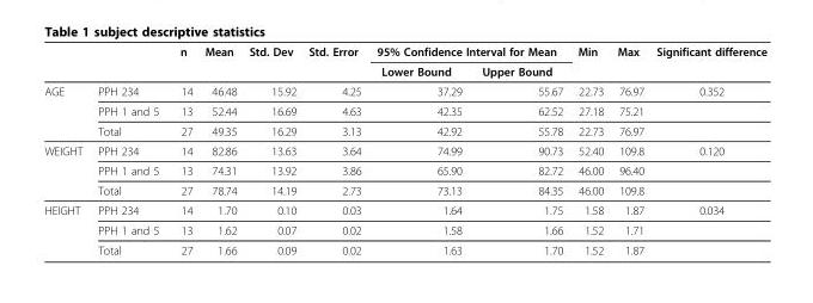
<table><thead><tr><td rowspan="2"></td><td rowspan="2"></td><td rowspan="2">n</td><td rowspan="2">Mean</td><td rowspan="2">Std. Dev</td><td rowspan="2">Std. Error</td><td colspan="2">95% Confidence Interval for Mean</td><td rowspan="2">Min</td><td rowspan="2">Max</td><td rowspan="2">Significant difference</td></tr><tr><td>Lower Bound</td><td>Upper Bound</td></tr></thead><tbody><tr><td rowspan="3">AGE</td><td>PPH 234</td><td>14</td><td>46.48</td><td>15.92</td><td>4.25</td><td>37.29</td><td>55.67</td><td>22.73</td><td>76.97</td><td>0.352</td></tr><tr><td>PPH 1 and 5</td><td>13</td><td>52.44</td><td>16.69</td><td>4.63</td><td>42.35</td><td>62.52</td><td>27.18</td><td>75.21</td><td></td></tr><tr><td>Total</td><td>27</td><td>49.35</td><td>16.29</td><td>3.13</td><td>42.92</td><td>55.78</td><td>22.73</td><td>76.97</td><td></td></tr><tr><td rowspan="3">WEIGHT</td><td>PPH 234</td><td>14</td><td>82.86</td><td>13.63</td><td>3.64</td><td>74.99</td><td>90.73</td><td>52.40</td><td>109.8</td><td>0.120</td></tr><tr><td>PPH 1 and 5</td><td>13</td><td>74.31</td><td>13.92</td><td>3.86</td><td>65.90</td><td>82.72</td><td>46.00</td><td>96.40</td><td></td></tr><tr><td>Total</td><td>27</td><td>78.74</td><td>14.19</td><td>2.73</td><td>73.13</td><td>84.35</td><td>46.00</td><td>109.8</td><td></td></tr><tr><td rowspan="3">HEIGHT</td><td>PPH 234</td><td>14</td><td>1.70</td><td>0.10</td><td>0.03</td><td>1.64</td><td>1.75</td><td>1.58</td><td>1.87</td><td>0.034</td></tr><tr><td>PPH 1 and 5</td><td>13</td><td>1.62</td><td>0.07</td><td>0.02</td><td>1.58</td><td>1.66</td><td>1.52</td><td>1.71</td><td></td></tr><tr><td>Total</td><td>27</td><td>1.66</td><td>0.09</td><td>0.02</td><td>1.63</td><td>1.70</td><td>1.52</td><td>1.87</td><td></td></tr></tbody></table>